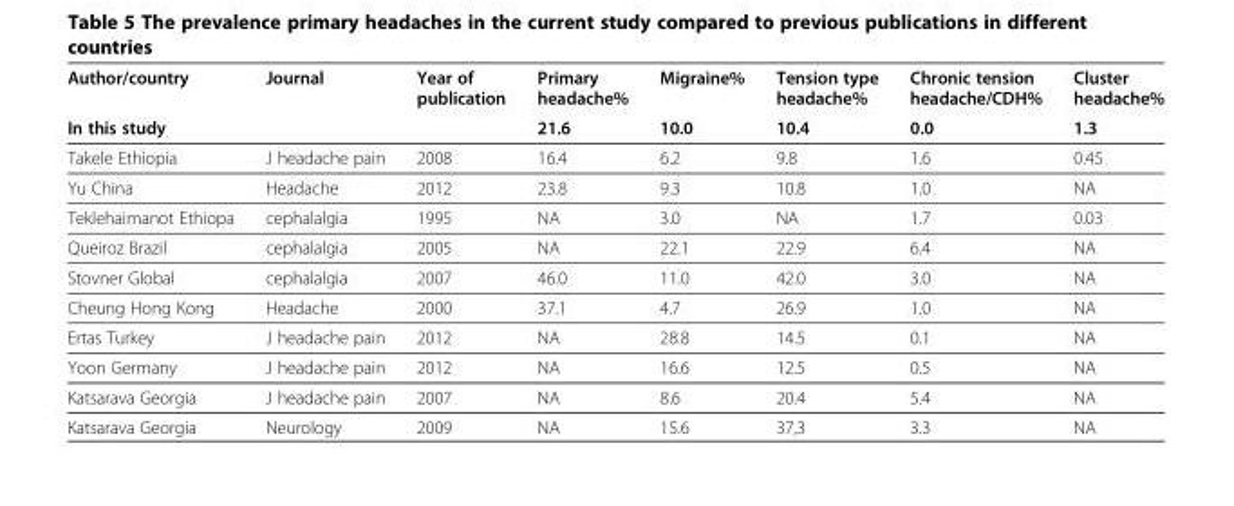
<table><thead><tr><td>Author/country</td><td>Journal</td><td>Year of publication</td><td rowspan="2">Primary headache% 21.6</td><td rowspan="2">Migraine% 10.0</td><td rowspan="2">Tension type headache% 10.4</td><td rowspan="2">Chronic tension headache/CDH% 0.0</td><td rowspan="2">Cluster headache% 1.3</td></tr><tr><td colspan="3">In this study</td></tr></thead><tbody><tr><td>Takele Ethiopia</td><td>J headache pain</td><td>2008</td><td>16.4</td><td>6.2</td><td>9.8</td><td>1.6</td><td>0.45</td></tr><tr><td>Yu China</td><td>Headache</td><td>2012</td><td>23.8</td><td>9.3</td><td>10.8</td><td>1.0</td><td>NA</td></tr><tr><td>Teklehaimanot Ethiopa</td><td>cephalalgia</td><td>1995</td><td>NA</td><td>3.0</td><td>NA</td><td>1.7</td><td>0.03</td></tr><tr><td>Queiroz Brazil</td><td>cephalalgia</td><td>2005</td><td>NA</td><td>22.1</td><td>22.9</td><td>6.4</td><td>NA</td></tr><tr><td>Stovner Global</td><td>cephalalgia</td><td>2007</td><td>46.0</td><td>11.0</td><td>42.0</td><td>3.0</td><td>NA</td></tr><tr><td>Cheung Hong Kong</td><td>Headache</td><td>2000</td><td>37.1</td><td>4.7</td><td>26.9</td><td>1.0</td><td>NA</td></tr><tr><td>Ertas Turkey</td><td>J headache pain</td><td>2012</td><td>NA</td><td>28.8</td><td>14.5</td><td>0.1</td><td>NA</td></tr><tr><td>Yoon Germany</td><td>J headache pain</td><td>2012</td><td>NA</td><td>16.6</td><td>12.5</td><td>0.5</td><td>NA</td></tr><tr><td>Katsarava Georgia</td><td>J headache pain</td><td>2007</td><td>NA</td><td>8.6</td><td>20.4</td><td>5.4</td><td>NA</td></tr><tr><td>Katsarava Georgia</td><td>Neurology</td><td>2009</td><td>NA</td><td>15.6</td><td>37,3</td><td>3.3</td><td>NA</td></tr></tbody></table>